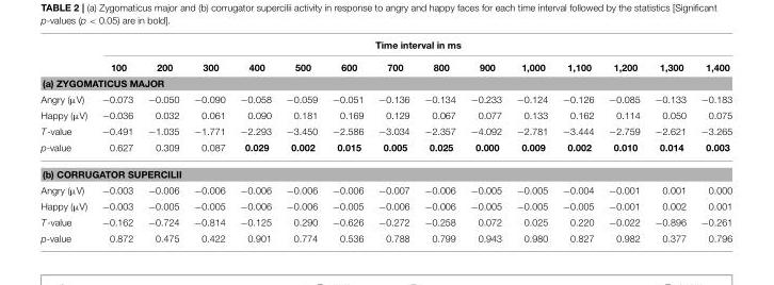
<table><thead><tr><td rowspan="2"></td><td colspan="14">Time interval in ms</td></tr><tr><td>100</td><td>200</td><td>300</td><td>400</td><td>500</td><td>600</td><td>700</td><td>800</td><td>900</td><td>1,000</td><td>1,100</td><td>1,200</td><td>1,300</td><td>1,400</td></tr></thead><tbody><tr><td colspan="15">(a) ZYGOMATICUS MAJOR</td></tr><tr><td>Angry (µV)</td><td>−0.073</td><td>−0.050</td><td>−0.090</td><td>−0.058</td><td>−0.059</td><td>−0.051</td><td>−0.136</td><td>−0.134</td><td>−0.233</td><td>−0.124</td><td>−0.126</td><td>−0.085</td><td>−0.133</td><td>−0.183</td></tr><tr><td>Happy (µV)</td><td>−0.036</td><td>0.032</td><td>0.061</td><td>0.090</td><td>0.181</td><td>0.169</td><td>0.129</td><td>0.067</td><td>0.077</td><td>0.133</td><td>0.162</td><td>0.114</td><td>0.050</td><td>0.075</td></tr><tr><td>T-value</td><td>−0.491</td><td>−1.035</td><td>−1.771</td><td>−2.293</td><td>−3.450</td><td>−2.586</td><td>−3.034</td><td>−2.357</td><td>−4.092</td><td>−2.781</td><td>−3.444</td><td>−2.759</td><td>−2.621</td><td>−3.265</td></tr><tr><td>p-value</td><td>0.627</td><td>0.309</td><td>0.087</td><td>0.029</td><td>0.002</td><td>0.015</td><td>0.005</td><td>0.025</td><td>0.000</td><td>0.009</td><td>0.002</td><td>0.010</td><td>0.014</td><td>0.003</td></tr><tr><td colspan="15">(b) CORRUGATOR SUPERCILII</td></tr><tr><td>Angry (µV)</td><td>−0.003</td><td>−0.006</td><td>−0.006</td><td>−0.006</td><td>−0.006</td><td>−0.006</td><td>−0.007</td><td>−0.006</td><td>−0.005</td><td>−0.005</td><td>−0.004</td><td>−0.001</td><td>0.001</td><td>0.000</td></tr><tr><td>Happy (µV)</td><td>−0.003</td><td>−0.005</td><td>−0.005</td><td>−0.006</td><td>−0.006</td><td>−0.005</td><td>−0.006</td><td>−0.006</td><td>−0.005</td><td>−0.005</td><td>−0.005</td><td>−0.001</td><td>0.002</td><td>0.001</td></tr><tr><td>T-value</td><td>−0.162</td><td>−0.724</td><td>−0.814</td><td>−0.125</td><td>0.290</td><td>−0.626</td><td>−0.272</td><td>−0.258</td><td>0.072</td><td>0.025</td><td>0.220</td><td>−0.022</td><td>−0.896</td><td>−0.261</td></tr><tr><td>p-value</td><td>0.872</td><td>0.475</td><td>0.422</td><td>0.901</td><td>0.774</td><td>0.536</td><td>0.788</td><td>0.799</td><td>0.943</td><td>0.980</td><td>0.827</td><td>0.982</td><td>0.377</td><td>0.796</td></tr></tbody></table>